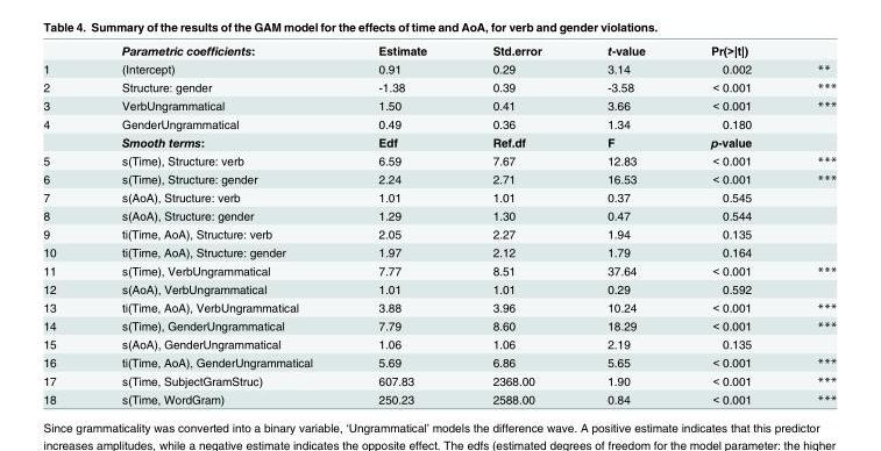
<table><thead><tr><td></td><td>Parametric coefficients:</td><td>Estimate</td><td>Std.error</td><td>t-value</td><td>Pr(&gt;|t|)</td><td></td></tr></thead><tbody><tr><td>1</td><td>(Intercept)</td><td>0.91</td><td>0.29</td><td>3.14</td><td>0.002</td><td>**</td></tr><tr><td>2</td><td>Structure: gender</td><td>-1.38</td><td>0.39</td><td>-3.58</td><td>&lt; 0.001</td><td>***</td></tr><tr><td>3</td><td>VerbUngrammatical</td><td>1.50</td><td>0.41</td><td>3.66</td><td>&lt; 0.001</td><td>***</td></tr><tr><td rowspan="2">4</td><td>GenderUngrammatical</td><td>0.49</td><td>0.36</td><td>1.34</td><td>0.180</td><td></td></tr><tr><td>Smooth terms:</td><td>Edf</td><td>Ref.df</td><td>F</td><td>p-value</td><td></td></tr><tr><td>5</td><td>s(Time), Structure: verb</td><td>6.59</td><td>7.67</td><td>12.83</td><td>&lt; 0.001</td><td>***</td></tr><tr><td>6</td><td>s(Time), Structure: gender</td><td>2.24</td><td>2.71</td><td>16.53</td><td>&lt; 0.001</td><td>***</td></tr><tr><td>7</td><td>s(AoA), Structure: verb</td><td>1.01</td><td>1.01</td><td>0.37</td><td>0.545</td><td></td></tr><tr><td>8</td><td>s(AoA), Structure: gender</td><td>1.29</td><td>1.30</td><td>0.47</td><td>0.544</td><td></td></tr><tr><td>9</td><td>ti(Time, AoA), Structure: verb</td><td>2.05</td><td>2.27</td><td>1.94</td><td>0.135</td><td></td></tr><tr><td>10</td><td>ti(Time, AoA), Structure: gender</td><td>1.97</td><td>2.12</td><td>1.79</td><td>0.164</td><td></td></tr><tr><td>11</td><td>s(Time), VerbUngrammatical</td><td>7.77</td><td>8.51</td><td>37.64</td><td>&lt; 0.001</td><td>***</td></tr><tr><td>12</td><td>s(AoA), VerbUngrammatical</td><td>1.01</td><td>1.01</td><td>0.29</td><td>0.592</td><td></td></tr><tr><td>13</td><td>ti(Time, AoA), VerbUngrammatical</td><td>3.88</td><td>3.96</td><td>10.24</td><td>&lt; 0.001</td><td>***</td></tr><tr><td>14</td><td>s(Time), GenderUngrammatical</td><td>7.79</td><td>8.60</td><td>18.29</td><td>&lt; 0.001</td><td>***</td></tr><tr><td>15</td><td>s(AoA), GenderUngrammatical</td><td>1.06</td><td>1.06</td><td>2.19</td><td>0.135</td><td></td></tr><tr><td>16</td><td>ti(Time, AoA), GenderUngrammatical</td><td>5.69</td><td>6.86</td><td>5.65</td><td>&lt; 0.001</td><td>***</td></tr><tr><td>17</td><td>s(Time, SubjectGramStruc)</td><td>607.83</td><td>2368.00</td><td>1.90</td><td>&lt; 0.001</td><td>***</td></tr><tr><td>18</td><td>s(Time, WordGram)</td><td>250.23</td><td>2588.00</td><td>0.84</td><td>&lt; 0.001</td><td>***</td></tr></tbody></table>